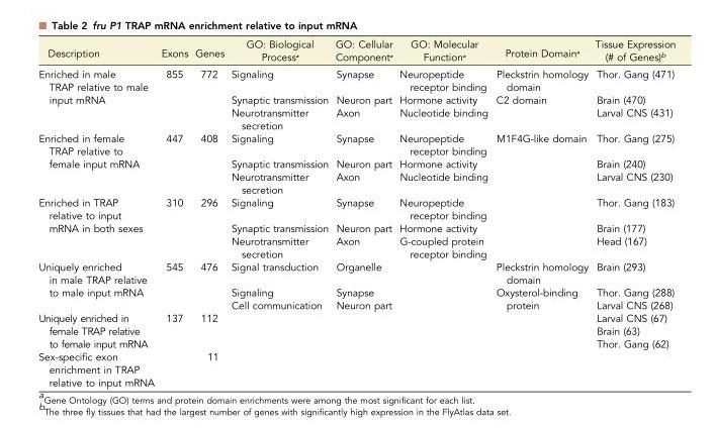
<table><thead><tr><td>Description</td><td>Exons</td><td>Genes</td><td>GO: Biological Process<sup>a</sup></td><td>GO: Cellular Component<sup>a</sup></td><td>GO: Molecular Function<sup>a</sup></td><td>Protein Domain<sup>a</sup></td><td>Tissue Expression (# of Genes)<sup>b</sup></td></tr></thead><tbody><tr><td rowspan="3">Enriched in male TRAP relative to male input mRNA</td><td rowspan="3">855</td><td rowspan="3">772</td><td>Signaling</td><td>Synapse</td><td>Neuropeptide receptor binding</td><td>Pleckstrin homology domain</td><td>Thor. Gang (471)</td></tr><tr><td>Synaptic transmission</td><td>Neuron part</td><td>Hormone activity</td><td rowspan="2">C2 domain</td><td>Brain (470)</td></tr><tr><td>Neurotransmitter secretion</td><td>Axon</td><td>Nucleotide binding</td><td>Larval CNS (431)</td></tr><tr><td rowspan="3">Enriched in female TRAP relative to female input mRNA</td><td rowspan="3">447</td><td rowspan="3">408</td><td>Signaling</td><td>Synapse</td><td>Neuropeptide receptor binding</td><td rowspan="3">M1F4G-like domain</td><td>Thor. Gang (275)</td></tr><tr><td>Synaptic transmission</td><td>Neuron part</td><td>Hormone activity</td><td>Brain (240)</td></tr><tr><td>Neurotransmitter secretion</td><td>Axon</td><td>Nucleotide binding</td><td>Larval CNS (230)</td></tr><tr><td rowspan="3">Enriched in TRAP relative to input mRNA in both sexes</td><td rowspan="3">310</td><td rowspan="3">296</td><td>Signaling</td><td>Synapse</td><td>Neuropeptide receptor binding</td><td rowspan="3"></td><td>Thor. Gang (183)</td></tr><tr><td>Synaptic transmission</td><td>Neuron part</td><td>Hormone activity</td><td>Brain (177)</td></tr><tr><td>Neurotransmitter secretion</td><td>Axon</td><td>G-coupled protein receptor binding</td><td>Head (167)</td></tr><tr><td rowspan="3">Uniquely enriched in male TRAP relative to male input mRNA</td><td rowspan="3">545</td><td rowspan="3">476</td><td>Signal transduction</td><td>Organelle</td><td rowspan="3"></td><td>Pleckstrin homology domain</td><td>Brain (293)</td></tr><tr><td>Signaling</td><td>Synapse</td><td rowspan="2">Oxysterol-binding protein</td><td>Thor. Gang (288)</td></tr><tr><td>Cell communication</td><td>Neuron part</td><td>Larval CNS (268)</td></tr><tr><td rowspan="3">Uniquely enriched in female TRAP relative to female input mRNA</td><td rowspan="3">137</td><td rowspan="3">112</td><td rowspan="3"></td><td rowspan="3"></td><td rowspan="3"></td><td rowspan="3"></td><td>Larval CNS (67)</td></tr><tr><td>Brain (63)</td></tr><tr><td>Thor. Gang (62)</td></tr><tr><td>Sex-specific exon enrichment in TRAP relative to input mRNA</td><td></td><td>11</td><td></td><td></td><td></td><td></td><td></td></tr></tbody></table>